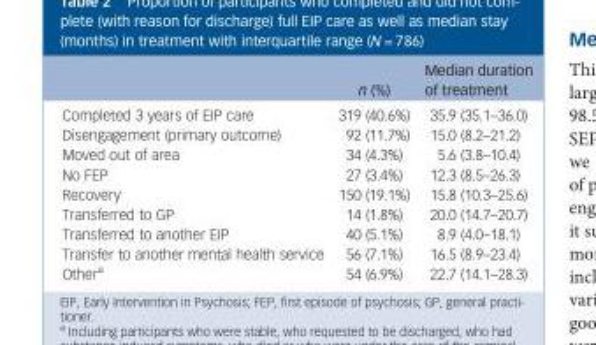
<table><thead><tr><td></td><td>n (%)</td><td>Median duration of treatment</td></tr></thead><tbody><tr><td>Completed 3 years of EIP care</td><td>319 (40.6%)</td><td>35.9 (35.1–36.0)</td></tr><tr><td>Disengagement (primary outcome)</td><td>92 (11.7%)</td><td>15.0 (8.2–21.2)</td></tr><tr><td>Moved out of area</td><td>34 (4.3%)</td><td>5.6 (3.8–10.4)</td></tr><tr><td>No FEP</td><td>27 (3.4%)</td><td>12.3 (8.5–26.3)</td></tr><tr><td>Recovery</td><td>150 (19.1%)</td><td>15.8 (10.3–25.6)</td></tr><tr><td>Transferred to GP</td><td>14 (1.8%)</td><td>20.0 (14.7–20.7)</td></tr><tr><td>Transferred to another EIP</td><td>40 (5.1%)</td><td>8.9 (4.0–18.1)</td></tr><tr><td>Transfer to another mental health service</td><td>56 (7.1%)</td><td>16.5 (8.9–23.4)</td></tr><tr><td>Other<sup>a</sup></td><td>54 (6.9%)</td><td>22.7 (14.1–28.3)</td></tr></tbody></table>